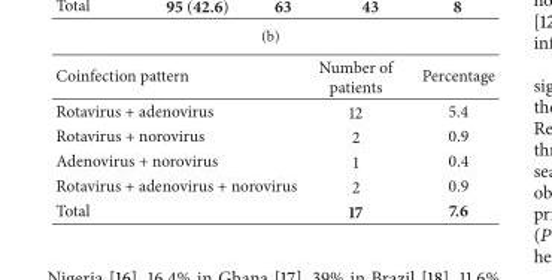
<table><thead><tr><td>Coinfection pattern</td><td>Number of patients</td><td>Percentage</td></tr></thead><tbody><tr><td>Rotavirus + adenovirus</td><td>12</td><td>5.4</td></tr><tr><td>Rotavirus + norovirus</td><td>2</td><td>0.9</td></tr><tr><td>Adenovirus + norovirus</td><td>1</td><td>0.4</td></tr><tr><td>Rotavirus + adenovirus + norovirus</td><td>2</td><td>0.9</td></tr><tr><td>Total</td><td>17</td><td>7.6</td></tr></tbody></table>